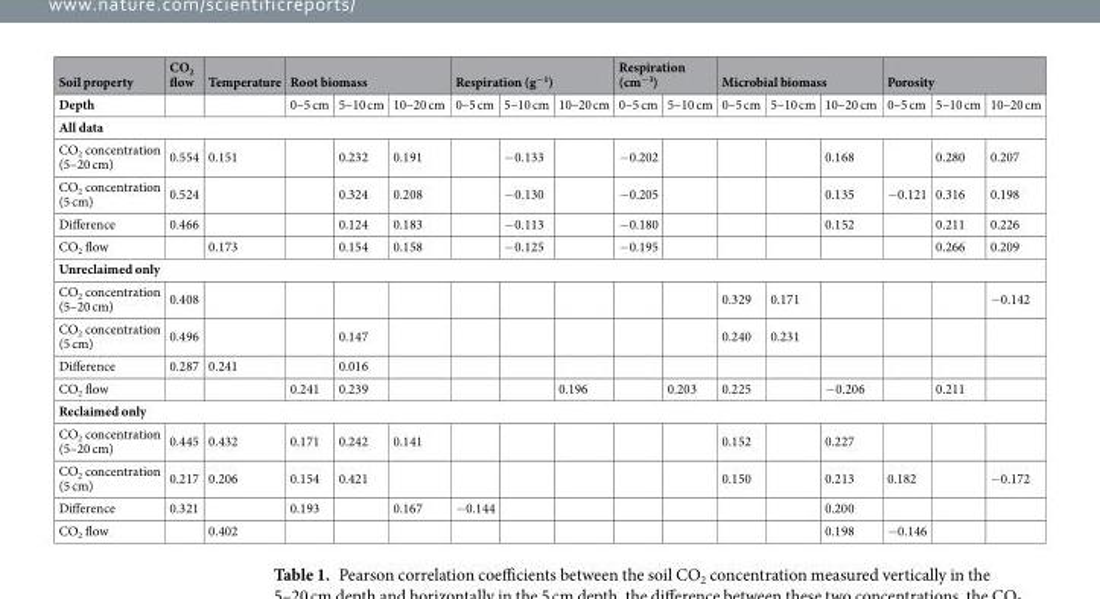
<table><thead><tr><td rowspan="2">Soil property Depth</td><td rowspan="2">CO<sub>2</sub> flow</td><td rowspan="2">Temperature</td><td colspan="3">Root biomass</td><td colspan="3">Respiration (g<sup>−1</sup>)</td><td colspan="2">Respiration (cm<sup>−3</sup>)</td><td colspan="3">Microbial biomass</td><td colspan="3">Porosity</td></tr><tr><td>0–5 cm</td><td>5–10 cm</td><td>10–20 cm</td><td>0–5 cm</td><td>5–10 cm</td><td>10–20 cm</td><td>0–5 cm</td><td>5–10 cm</td><td>0–5 cm</td><td>5–10 cm</td><td>10–20 cm</td><td>0–5 cm</td><td>5–10 cm</td><td>10–20 cm</td></tr></thead><tbody><tr><td colspan="17">All data</td></tr><tr><td>CO<sub>2</sub> concentration (5–20 cm)</td><td>0.554</td><td>0.151</td><td></td><td>0.232</td><td>0.191</td><td></td><td>−0.133</td><td></td><td>−0.202</td><td></td><td></td><td></td><td>0.168</td><td></td><td>0.280</td><td>0.207</td></tr><tr><td>CO<sub>2</sub> concentration (5 cm)</td><td>0.524</td><td></td><td></td><td>0.324</td><td>0.208</td><td></td><td>−0.130</td><td></td><td>−0.205</td><td></td><td></td><td></td><td>0.135</td><td>−0.121</td><td>0.316</td><td>0.198</td></tr><tr><td>Difference</td><td>0.466</td><td></td><td></td><td>0.124</td><td>0.183</td><td></td><td>−0.113</td><td></td><td>−0.180</td><td></td><td></td><td></td><td>0.152</td><td></td><td>0.211</td><td>0.226</td></tr><tr><td>CO<sub>2</sub> flow</td><td></td><td>0.173</td><td></td><td>0.154</td><td>0.158</td><td></td><td>−0.125</td><td></td><td>−0.195</td><td></td><td></td><td></td><td></td><td></td><td>0.266</td><td>0.209</td></tr><tr><td colspan="17">Unreclaimed only</td></tr><tr><td>CO<sub>2</sub> concentration (5–20 cm)</td><td>0.408</td><td></td><td></td><td></td><td></td><td></td><td></td><td></td><td></td><td></td><td>0.329</td><td>0.171</td><td></td><td></td><td></td><td>−0.142</td></tr><tr><td>CO<sub>2</sub> concentration (5 cm)</td><td>0.496</td><td></td><td></td><td>0.147</td><td></td><td></td><td></td><td></td><td></td><td></td><td>0.240</td><td>0.231</td><td></td><td></td><td></td><td></td></tr><tr><td>Difference</td><td>0.287</td><td>0.241</td><td></td><td>0.016</td><td></td><td></td><td></td><td></td><td></td><td></td><td></td><td></td><td></td><td></td><td></td><td></td></tr><tr><td>CO<sub>2</sub> flow</td><td></td><td></td><td>0.241</td><td>0.239</td><td></td><td></td><td></td><td>0.196</td><td></td><td>0.203</td><td>0.225</td><td></td><td>−0.206</td><td></td><td>0.211</td><td></td></tr><tr><td colspan="17">Reclaimed only</td></tr><tr><td>CO<sub>2</sub> concentration (5–20 cm)</td><td>0.445</td><td>0.432</td><td>0.171</td><td>0.242</td><td>0.141</td><td></td><td></td><td></td><td></td><td></td><td>0.152</td><td></td><td>0.227</td><td></td><td></td><td></td></tr><tr><td>CO<sub>2</sub> concentration (5 cm)</td><td>0.217</td><td>0.206</td><td>0.154</td><td>0.421</td><td></td><td></td><td></td><td></td><td></td><td></td><td>0.150</td><td></td><td>0.213</td><td>0.182</td><td></td><td>−0.172</td></tr><tr><td>Difference</td><td>0.321</td><td></td><td>0.193</td><td></td><td>0.167</td><td>−0.144</td><td></td><td></td><td></td><td></td><td></td><td></td><td>0.200</td><td></td><td></td><td></td></tr><tr><td>CO<sub>2</sub> flow</td><td></td><td>0.402</td><td></td><td></td><td></td><td></td><td></td><td></td><td></td><td></td><td></td><td></td><td>0.198</td><td>−0.146</td><td></td><td></td></tr></tbody></table>